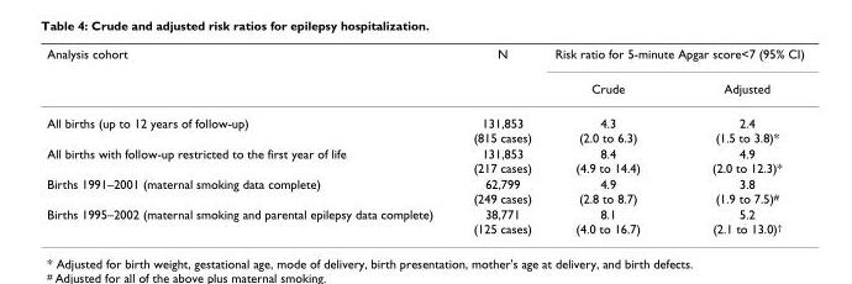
<table><thead><tr><td rowspan="2">Analysis cohort</td><td rowspan="2">N</td><td colspan="2">Risk ratio for 5-minute Apgar score&lt;7 (95% CI)</td></tr><tr><td>Crude</td><td>Adjusted</td></tr></thead><tbody><tr><td>All births (up to 12 years of follow-up)</td><td>131,853 (815 cases)</td><td>4.3 (2.0 to 6.3)</td><td>2.4 (1.5 to 3.8)*</td></tr><tr><td>All births with follow-up restricted to the first year of life</td><td>131,853 (217 cases)</td><td>8.4 (4.9 to 14.4)</td><td>4.9 (2.0 to 12.3)*</td></tr><tr><td>Births 1991–2001 (maternal smoking data complete)</td><td>62,799 (249 cases)</td><td>4.9 (2.8 to 8.7)</td><td>3.8 (1.9 to 7.5)#</td></tr><tr><td>Births 1995–2002 (maternal smoking and parental epilepsy data complete)</td><td>38,771 (125 cases)</td><td>8.1 (4.0 to 16.7)</td><td>5.2 (2.1 to 13.0)†</td></tr></tbody></table>